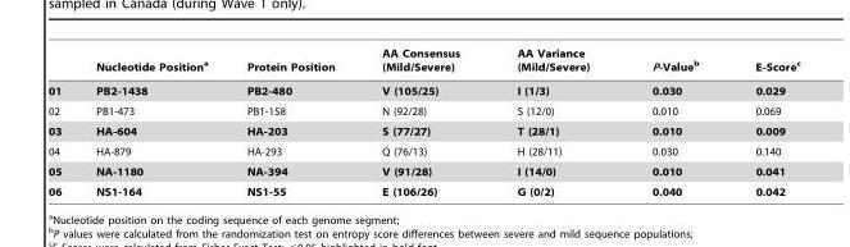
<table><thead><tr><td></td><td>Nucleotide Position<sup>a</sup></td><td>Protein Position</td><td>AA Consensus (Mild/Severe)</td><td>AA Variance (Mild/Severe)</td><td>P-Value<sup>b</sup></td><td>E-Score<sup>c</sup></td></tr></thead><tbody><tr><td>01</td><td>PB2-1438</td><td>PB2-480</td><td>V (105/25)</td><td>I (1/3)</td><td>0.030</td><td>0.029</td></tr><tr><td>02</td><td>PB1-473</td><td>PB1-158</td><td>N (92/28)</td><td>S (12/0)</td><td>0.010</td><td>0.069</td></tr><tr><td>03</td><td>HA-604</td><td>HA-203</td><td>S (77/27)</td><td>T (28/1)</td><td>0.010</td><td>0.009</td></tr><tr><td>04</td><td>HA-879</td><td>HA-293</td><td>Q (76/13)</td><td>H (28/11)</td><td>0.030</td><td>0.140</td></tr><tr><td>05</td><td>NA-1180</td><td>NA-394</td><td>V (91/28)</td><td>I (14/0)</td><td>0.010</td><td>0.041</td></tr><tr><td>06</td><td>NS1-164</td><td>NS1-55</td><td>E (106/26)</td><td>G (0/2)</td><td>0.040</td><td>0.042</td></tr></tbody></table>